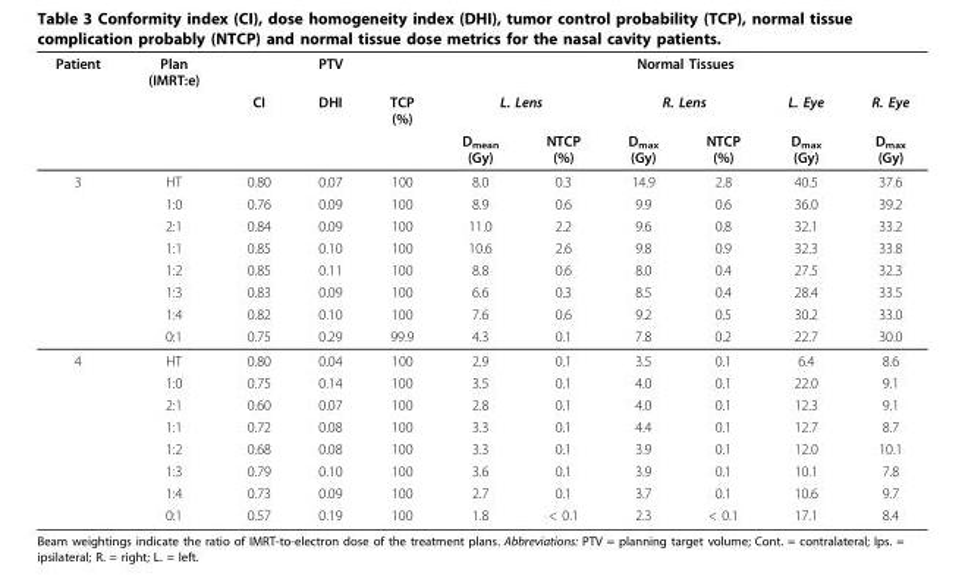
<table><thead><tr><td rowspan="3">Patient</td><td rowspan="3">Plan (IMRT:e)</td><td colspan="3">PTV</td><td colspan="6">Normal Tissues</td></tr><tr><td rowspan="2">CI</td><td rowspan="2">DHI</td><td rowspan="2">TCP (%)</td><td colspan="2">L. Lens</td><td colspan="2">R. Lens</td><td rowspan="2">L. Eye D<sub>max</sub> (Gy)</td><td rowspan="2">R. Eye D<sub>max</sub> (Gy)</td></tr><tr><td>D<sub>mean</sub> (Gy)</td><td>NTCP (%)</td><td>D<sub>max</sub> (Gy)</td><td>NTCP (%)</td></tr></thead><tbody><tr><td rowspan="8">3</td><td>HT</td><td>0.80</td><td>0.07</td><td>100</td><td>8.0</td><td>0.3</td><td>14.9</td><td>2.8</td><td>40.5</td><td>37.6</td></tr><tr><td>1:0</td><td>0.76</td><td>0.09</td><td>100</td><td>8.9</td><td>0.6</td><td>9.9</td><td>0.6</td><td>36.0</td><td>39.2</td></tr><tr><td>2:1</td><td>0.84</td><td>0.09</td><td>100</td><td>11.0</td><td>2.2</td><td>9.6</td><td>0.8</td><td>32.1</td><td>33.2</td></tr><tr><td>1:1</td><td>0.85</td><td>0.10</td><td>100</td><td>10.6</td><td>2.6</td><td>9.8</td><td>0.9</td><td>32.3</td><td>33.8</td></tr><tr><td>1:2</td><td>0.85</td><td>0.11</td><td>100</td><td>8.8</td><td>0.6</td><td>8.0</td><td>0.4</td><td>27.5</td><td>32.3</td></tr><tr><td>1:3</td><td>0.83</td><td>0.09</td><td>100</td><td>6.6</td><td>0.3</td><td>8.5</td><td>0.4</td><td>28.4</td><td>33.5</td></tr><tr><td>1:4</td><td>0.82</td><td>0.10</td><td>100</td><td>7.6</td><td>0.6</td><td>9.2</td><td>0.5</td><td>30.2</td><td>33.0</td></tr><tr><td>0:1</td><td>0.75</td><td>0.29</td><td>99.9</td><td>4.3</td><td>0.1</td><td>7.8</td><td>0.2</td><td>22.7</td><td>30.0</td></tr><tr><td rowspan="8">4</td><td>HT</td><td>0.80</td><td>0.04</td><td>100</td><td>2.9</td><td>0.1</td><td>3.5</td><td>0.1</td><td>6.4</td><td>8.6</td></tr><tr><td>1:0</td><td>0.75</td><td>0.14</td><td>100</td><td>3.5</td><td>0.1</td><td>4.0</td><td>0.1</td><td>22.0</td><td>9.1</td></tr><tr><td>2:1</td><td>0.60</td><td>0.07</td><td>100</td><td>2.8</td><td>0.1</td><td>4.0</td><td>0.1</td><td>12.3</td><td>9.1</td></tr><tr><td>1:1</td><td>0.72</td><td>0.08</td><td>100</td><td>3.3</td><td>0.1</td><td>4.4</td><td>0.1</td><td>12.7</td><td>8.7</td></tr><tr><td>1:2</td><td>0.68</td><td>0.08</td><td>100</td><td>3.3</td><td>0.1</td><td>3.9</td><td>0.1</td><td>12.0</td><td>10.1</td></tr><tr><td>1:3</td><td>0.79</td><td>0.10</td><td>100</td><td>3.6</td><td>0.1</td><td>3.9</td><td>0.1</td><td>10.1</td><td>7.8</td></tr><tr><td>1:4</td><td>0.73</td><td>0.09</td><td>100</td><td>2.7</td><td>0.1</td><td>3.7</td><td>0.1</td><td>10.6</td><td>9.7</td></tr><tr><td>0:1</td><td>0.57</td><td>0.19</td><td>100</td><td>1.8</td><td>&lt; 0.1</td><td>2.3</td><td>&lt; 0.1</td><td>17.1</td><td>8.4</td></tr></tbody></table>